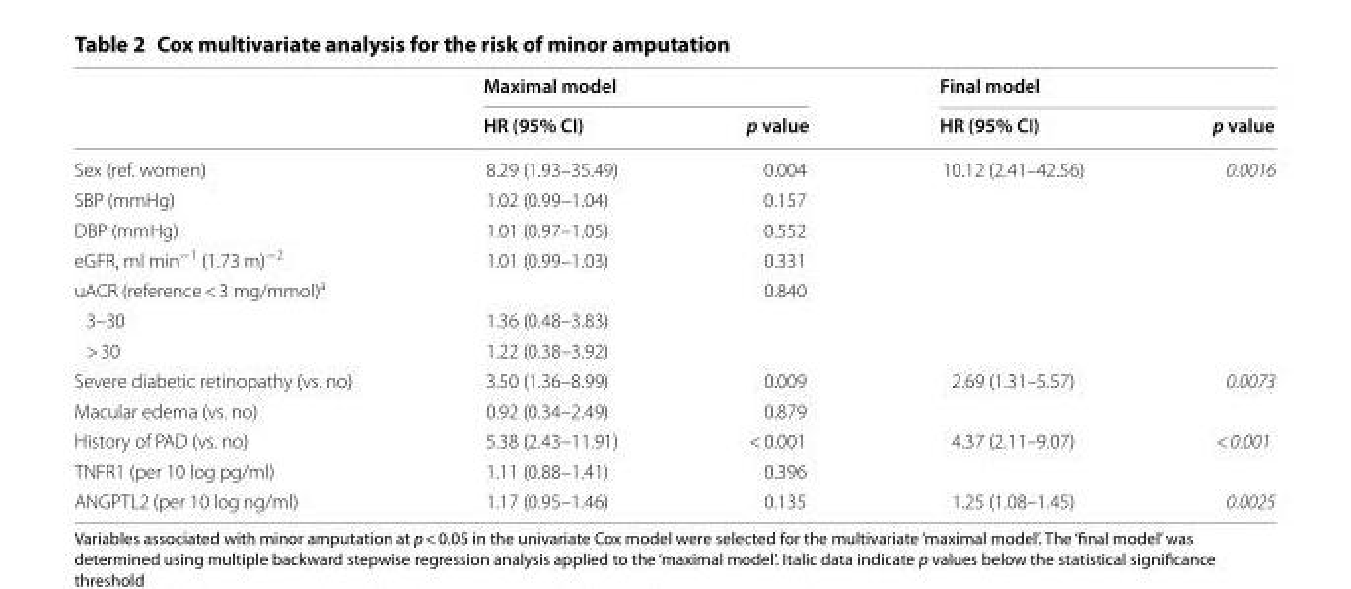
<table><thead><tr><td rowspan="2"></td><td colspan="2">Maximal model</td><td colspan="2">Final model</td></tr><tr><td>HR (95% CI)</td><td>p value</td><td>HR (95% CI)</td><td>p value</td></tr></thead><tbody><tr><td>Sex (ref. women)</td><td>8.29 (1.93–35.49)</td><td>0.004</td><td>10.12 (2.41–42.56)</td><td>0.0016</td></tr><tr><td>SBP (mmHg)</td><td>1.02 (0.99–1.04)</td><td>0.157</td><td></td><td></td></tr><tr><td>DBP (mmHg)</td><td>1.01 (0.97–1.05)</td><td>0.552</td><td></td><td></td></tr><tr><td>eGFR, ml min<sup>−1</sup> (1.73 m)<sup>−2</sup></td><td>1.01 (0.99–1.03)</td><td>0.331</td><td></td><td></td></tr><tr><td>uACR (reference &lt; 3 mg/mmol)<sup>a</sup></td><td></td><td>0.840</td><td></td><td></td></tr><tr><td>3–30</td><td>1.36 (0.48–3.83)</td><td></td><td></td><td></td></tr><tr><td>&gt; 30</td><td>1.22 (0.38–3.92)</td><td></td><td></td><td></td></tr><tr><td>Severe diabetic retinopathy (vs. no)</td><td>3.50 (1.36–8.99)</td><td>0.009</td><td>2.69 (1.31–5.57)</td><td>0.0073</td></tr><tr><td>Macular edema (vs. no)</td><td>0.92 (0.34–2.49)</td><td>0.879</td><td></td><td></td></tr><tr><td>History of PAD (vs. no)</td><td>5.38 (2.43–11.91)</td><td>&lt; 0.001</td><td>4.37 (2.11–9.07)</td><td>&lt; 0.001</td></tr><tr><td>TNFR1 (per 10 log pg/ml)</td><td>1.11 (0.88–1.41)</td><td>0.396</td><td></td><td></td></tr><tr><td>ANGPTL2 (per 10 log ng/ml)</td><td>1.17 (0.95–1.46)</td><td>0.135</td><td>1.25 (1.08–1.45)</td><td>0.0025</td></tr></tbody></table>